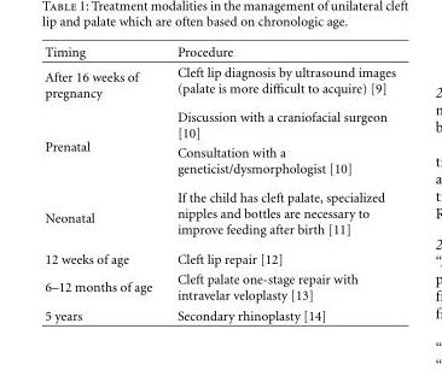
<table><thead><tr><td>Timing</td><td>Procedure</td></tr></thead><tbody><tr><td>After 16 weeks of pregnancy</td><td>Cleft lip diagnosis by ultrasound images (palate is more difficult to acquire) [9]</td></tr><tr><td rowspan="2">Prenatal</td><td>Discussion with a craniofacial surgeon [10]</td></tr><tr><td>Consultation with a geneticist/dysmorphologist [10]</td></tr><tr><td>Neonatal</td><td>If the child has cleft palate, specialized nipples and bottles are necessary to improve feeding after birth [11]</td></tr><tr><td>12 weeks of age</td><td>Cleft lip repair [12]</td></tr><tr><td>6–12 months of age</td><td>Cleft palate one-stage repair with intravelar veloplasty [13]</td></tr><tr><td>5 years</td><td>Secondary rhinoplasty [14]</td></tr></tbody></table>